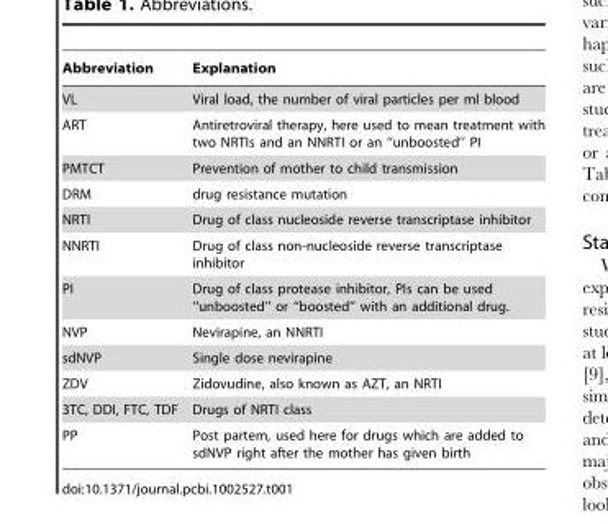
<table><thead><tr><td>Abbreviation</td><td>Explanation</td></tr></thead><tbody><tr><td>VL</td><td>Viral load, the number of viral particles per ml blood</td></tr><tr><td>ART</td><td>Antiretroviral therapy, here used to mean treatment with two NRTIs and an NNRTI or an ‘‘unboosted’’ PI</td></tr><tr><td>PMTCT</td><td>Prevention of mother to child transmission</td></tr><tr><td>DRM</td><td>drug resistance mutation</td></tr><tr><td>NRTI</td><td>Drug of class nucleoside reverse transcriptase inhibitor</td></tr><tr><td>NNRTI</td><td>Drug of class non-nucleoside reverse transcriptase inhibitor</td></tr><tr><td>PI</td><td>Drug of class protease inhibitor, PIs can be used ‘‘unboosted’’ or ‘‘boosted’’ with an additional drug.</td></tr><tr><td>NVP</td><td>Nevirapine, an NNRTI</td></tr><tr><td>sdNVP</td><td>Single dose nevirapine</td></tr><tr><td>ZDV</td><td>Zidovudine, also known as AZT, an NRTI</td></tr><tr><td>3TC, DDI, FTC, TDF</td><td>Drugs of NRTI class</td></tr><tr><td>PP</td><td>Post partem, used here for drugs which are added to sdNVP right after the mother has given birth</td></tr></tbody></table>